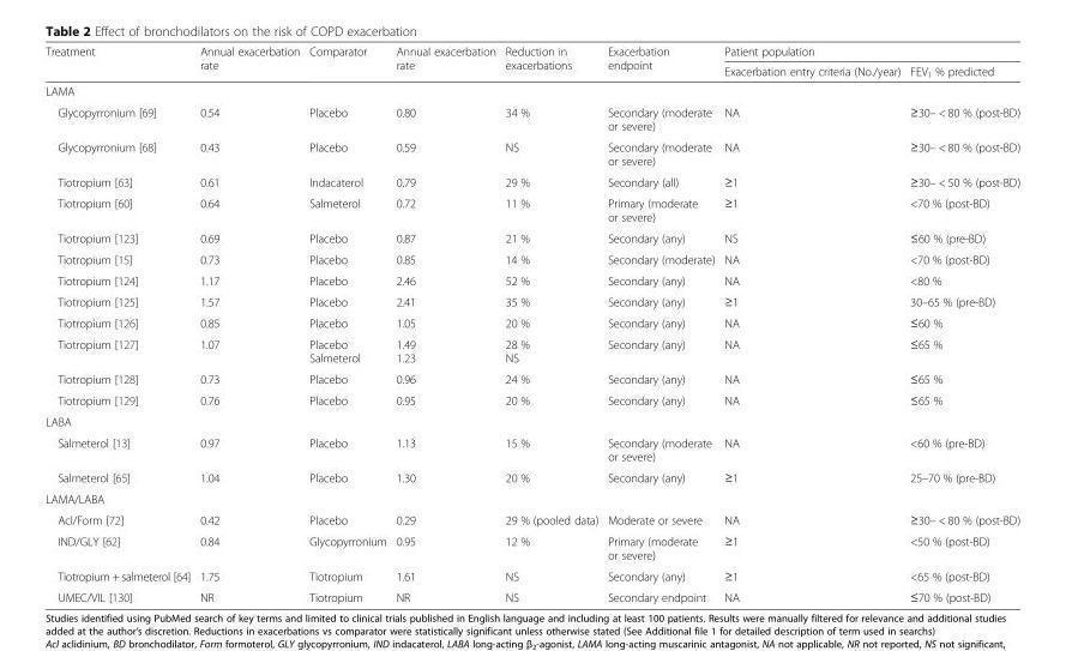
<table><thead><tr><td rowspan="2">Treatment</td><td rowspan="2">Annual exacerbation rate</td><td rowspan="2">Comparator</td><td rowspan="2">Annual exacerbation rate</td><td rowspan="2">Reduction in exacerbations</td><td rowspan="2">Exacerbation endpoint</td><td colspan="2">Patient population</td></tr><tr><td>Exacerbation entry criteria (No./year)</td><td>FEV<sub>1</sub> % predicted</td></tr></thead><tbody><tr><td colspan="8">LAMA</td></tr><tr><td>Glycopyrronium [69]</td><td>0.54</td><td>Placebo</td><td>0.80</td><td>34 %</td><td>Secondary (moderate or severe)</td><td>NA</td><td>≥30– &lt; 80 % (post-BD)</td></tr><tr><td>Glycopyrronium [68]</td><td>0.43</td><td>Placebo</td><td>0.59</td><td>NS</td><td>Secondary (moderate or severe)</td><td>NA</td><td>≥30– &lt; 80 % (post-BD)</td></tr><tr><td>Tiotropium [63]</td><td>0.61</td><td>Indacaterol</td><td>0.79</td><td>29 %</td><td>Secondary (all)</td><td>≥1</td><td>≥30– &lt; 50 % (post-BD)</td></tr><tr><td>Tiotropium [60]</td><td>0.64</td><td>Salmeterol</td><td>0.72</td><td>11 %</td><td>Primary (moderate or severe)</td><td>≥1</td><td>&lt;70 % (post-BD)</td></tr><tr><td>Tiotropium [123]</td><td>0.69</td><td>Placebo</td><td>0.87</td><td>21 %</td><td>Secondary (any)</td><td>NS</td><td>≤60 % (pre-BD)</td></tr><tr><td>Tiotropium [15]</td><td>0.73</td><td>Placebo</td><td>0.85</td><td>14 %</td><td>Secondary (moderate)</td><td>NA</td><td>&lt;70 % (post-BD)</td></tr><tr><td>Tiotropium [124]</td><td>1.17</td><td>Placebo</td><td>2.46</td><td>52 %</td><td>Secondary (any)</td><td>NA</td><td>&lt;80 %</td></tr><tr><td>Tiotropium [125]</td><td>1.57</td><td>Placebo</td><td>2.41</td><td>35 %</td><td>Secondary (any)</td><td>≥1</td><td>30–65 % (pre-BD)</td></tr><tr><td>Tiotropium [126]</td><td>0.85</td><td>Placebo</td><td>1.05</td><td>20 %</td><td>Secondary (any)</td><td>NA</td><td>≤60 %</td></tr><tr><td>Tiotropium [127]</td><td>1.07</td><td>Placebo Salmeterol</td><td>1.49 1.23</td><td>28 % NS</td><td>Secondary (any)</td><td>NA</td><td>≤65 %</td></tr><tr><td>Tiotropium [128]</td><td>0.73</td><td>Placebo</td><td>0.96</td><td>24 %</td><td>Secondary (any)</td><td>NA</td><td>≤65 %</td></tr><tr><td>Tiotropium [129]</td><td>0.76</td><td>Placebo</td><td>0.95</td><td>20 %</td><td>Secondary (any)</td><td>NA</td><td>≤65 %</td></tr><tr><td colspan="8">LABA</td></tr><tr><td>Salmeterol [13]</td><td>0.97</td><td>Placebo</td><td>1.13</td><td>15 %</td><td>Secondary (moderate or severe)</td><td>NA</td><td>&lt;60 % (pre-BD)</td></tr><tr><td>Salmeterol [65]</td><td>1.04</td><td>Placebo</td><td>1.30</td><td>20 %</td><td>Secondary (any)</td><td>≥1</td><td>25–70 % (pre-BD)</td></tr><tr><td colspan="8">LAMA/LABA</td></tr><tr><td>Acl/Form [72]</td><td>0.42</td><td>Placebo</td><td>0.29</td><td>29 % (pooled data)</td><td>Moderate or severe</td><td>NA</td><td>≥30– &lt; 80 % (post-BD)</td></tr><tr><td>IND/GLY [62]</td><td>0.84</td><td>Glycopyrronium</td><td>0.95</td><td>12 %</td><td>Primary (moderate or severe)</td><td>≥1</td><td>&lt;50 % (post-BD)</td></tr><tr><td>Tiotropium + salmeterol [64]</td><td>1.75</td><td>Tiotropium</td><td>1.61</td><td>NS</td><td>Secondary (any)</td><td>≥1</td><td>&lt;65 % (post-BD)</td></tr><tr><td>UMEC/VIL [130]</td><td>NR</td><td>Tiotropium</td><td>NR</td><td>NS</td><td>Secondary endpoint</td><td>NA</td><td>≤70 % (post-BD)</td></tr></tbody></table>